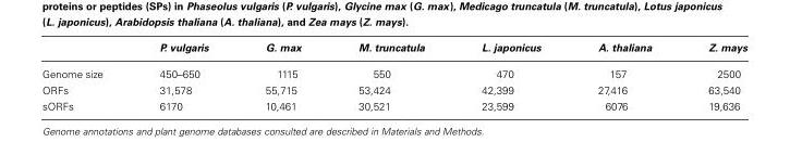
<table><thead><tr><td></td><td>P. vulgaris</td><td>G. max</td><td>M. truncatula</td><td>L. japonicus</td><td>A. thaliana</td><td>Z. mays</td></tr></thead><tbody><tr><td>Genome size</td><td>450–650</td><td>1115</td><td>550</td><td>470</td><td>157</td><td>2500</td></tr><tr><td>ORFs</td><td>31,578</td><td>55,715</td><td>53,424</td><td>42,399</td><td>27,416</td><td>63,540</td></tr><tr><td>sORFs</td><td>6170</td><td>10,461</td><td>30,521</td><td>23,599</td><td>6076</td><td>19,636</td></tr></tbody></table>